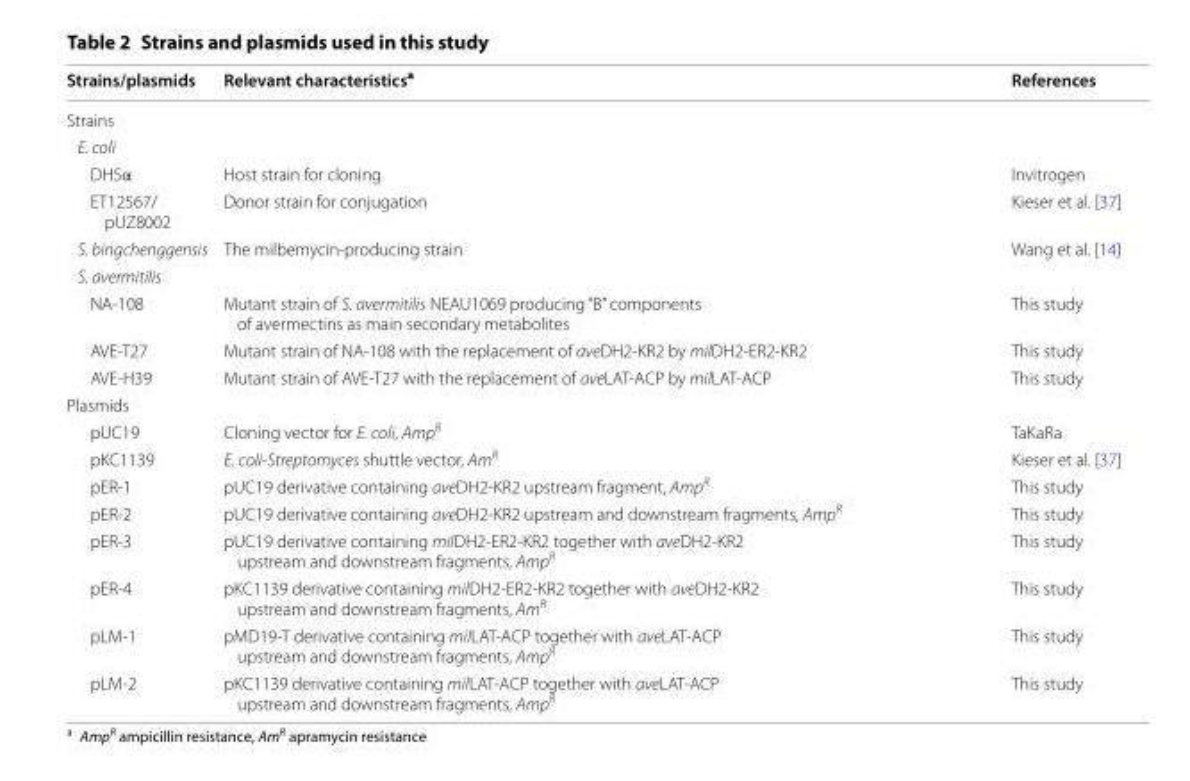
<table><thead><tr><td>Strains/plasmids</td><td>Relevant characteristics<sup>a</sup></td><td>References</td></tr></thead><tbody><tr><td colspan="3">Strains</td></tr><tr><td colspan="3">E. coli</td></tr><tr><td>DH5α</td><td>Host strain for cloning</td><td>Invitrogen</td></tr><tr><td>ET12567/ pUZ8002</td><td>Donor strain for conjugation</td><td>Kieser et al. [37]</td></tr><tr><td>S. bingchenggensis</td><td>The milbemycin‑producing strain</td><td>Wang et al. [14]</td></tr><tr><td colspan="3">S. avermitilis</td></tr><tr><td>NA‑108</td><td>Mutant strain of S. avermitilis NEAU1069 producing “B” components of avermectins as main secondary metabolites</td><td>This study</td></tr><tr><td>AVE‑T27</td><td>Mutant strain of NA‑108 with the replacement of aveDH2‑KR2 by milDH2‑ER2‑KR2</td><td>This study</td></tr><tr><td>AVE‑H39</td><td>Mutant strain of AVE‑T27 with the replacement of aveLAT‑ACP by milLAT‑ACP</td><td>This study</td></tr><tr><td colspan="3">Plasmids</td></tr><tr><td>pUC19</td><td>Cloning vector for E. coli, Amp<sup>R</sup></td><td>TaKaRa</td></tr><tr><td>pKC1139</td><td>E. coli‑Streptomyces shuttle vector, Am<sup>R</sup></td><td>Kieser et al. [37]</td></tr><tr><td>pER‑1</td><td>pUC19 derivative containing aveDH2‑KR2 upstream fragment, Amp<sup>R</sup></td><td>This study</td></tr><tr><td>pER‑2</td><td>pUC19 derivative containing aveDH2‑KR2 upstream and downstream fragments, Amp<sup>R</sup></td><td>This study</td></tr><tr><td>pER‑3</td><td>pUC19 derivative containing milDH2‑ER2‑KR2 together with aveDH2‑KR2 upstream and downstream fragments, Amp<sup>R</sup></td><td>This study</td></tr><tr><td>pER‑4</td><td>pKC1139 derivative containing milDH2‑ER2‑KR2 together with aveDH2‑KR2 upstream and downstream fragments, Am<sup>R</sup></td><td>This study</td></tr><tr><td>pLM‑1</td><td>pMD19‑T derivative containing milLAT‑ACP together with aveLAT‑ACP upstream and downstream fragments, Amp<sup>R</sup></td><td>This study</td></tr><tr><td>pLM‑2</td><td>pKC1139 derivative containing milLAT‑ACP together with aveLAT‑ACP upstream and downstream fragments, Amp<sup>R</sup></td><td>This study</td></tr></tbody></table>